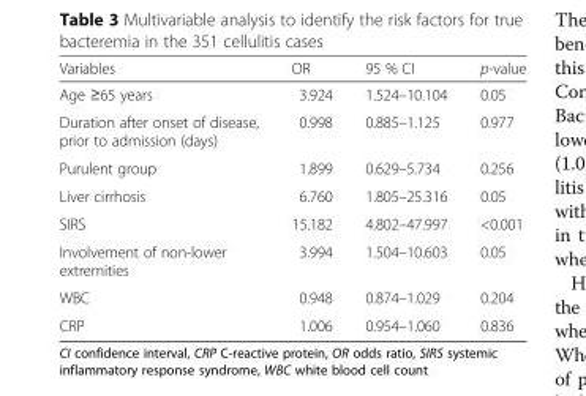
<table><thead><tr><td>Variables</td><td>OR</td><td>95 % CI</td><td>p-value</td></tr></thead><tbody><tr><td>Age ≥65 years</td><td>3.924</td><td>1.524–10.104</td><td>0.05</td></tr><tr><td>Duration after onset of disease, prior to admission (days)</td><td>0.998</td><td>0.885–1.125</td><td>0.977</td></tr><tr><td>Purulent group</td><td>1.899</td><td>0.629–5.734</td><td>0.256</td></tr><tr><td>Liver cirrhosis</td><td>6.760</td><td>1.805–25.316</td><td>0.05</td></tr><tr><td>SIRS</td><td>15.182</td><td>4.802–47.997</td><td>&lt;0.001</td></tr><tr><td>Involvement of non-lower extremities</td><td>3.994</td><td>1.504–10.603</td><td>0.05</td></tr><tr><td>WBC</td><td>0.948</td><td>0.874–1.029</td><td>0.204</td></tr><tr><td>CRP</td><td>1.006</td><td>0.954–1.060</td><td>0.836</td></tr></tbody></table>